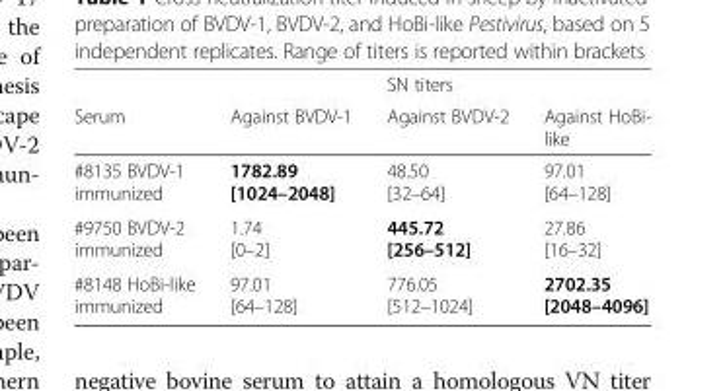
<table><thead><tr><td rowspan="2">Serum</td><td rowspan="2">Against BVDV-1</td><td rowspan="2">SN titers Against BVDV-2</td><td rowspan="2">Against HoBi- like</td></tr><tr></tr></thead><tbody><tr><td>#8135 BVDV-1 immunized</td><td>1782.89 [1024–2048]</td><td>48.50 [32–64]</td><td>97.01 [64–128]</td></tr><tr><td>#9750 BVDV-2 immunized</td><td>1.74 [0–2]</td><td>445.72 [256–512]</td><td>27.86 [16–32]</td></tr><tr><td>#8148 HoBi-like immunized</td><td>97.01 [64–128]</td><td>776.05 [512–1024]</td><td>2702.35 [2048–4096]</td></tr></tbody></table>